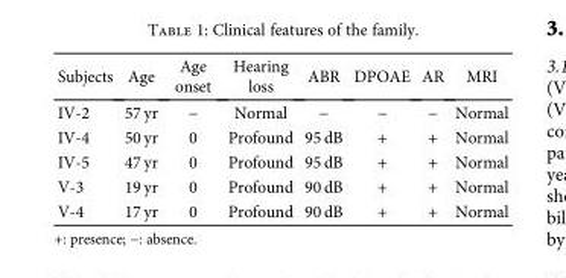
<table><thead><tr><td>Subjects</td><td>Age</td><td>Age onset</td><td>Hearing loss</td><td>ABR</td><td>DPOAE</td><td>AR</td><td>MRI</td></tr></thead><tbody><tr><td>IV-2</td><td>57 yr</td><td>−</td><td>Normal</td><td>−</td><td>−</td><td>−</td><td>Normal</td></tr><tr><td>IV-4</td><td>50 yr</td><td>0</td><td>Profound</td><td>95 dB</td><td>+</td><td>+</td><td>Normal</td></tr><tr><td>IV-5</td><td>47 yr</td><td>0</td><td>Profound</td><td>95 dB</td><td>+</td><td>+</td><td>Normal</td></tr><tr><td>V-3</td><td>19 yr</td><td>0</td><td>Profound</td><td>90 dB</td><td>+</td><td>+</td><td>Normal</td></tr><tr><td>V-4</td><td>17 yr</td><td>0</td><td>Profound</td><td>90 dB</td><td>+</td><td>+</td><td>Normal</td></tr></tbody></table>